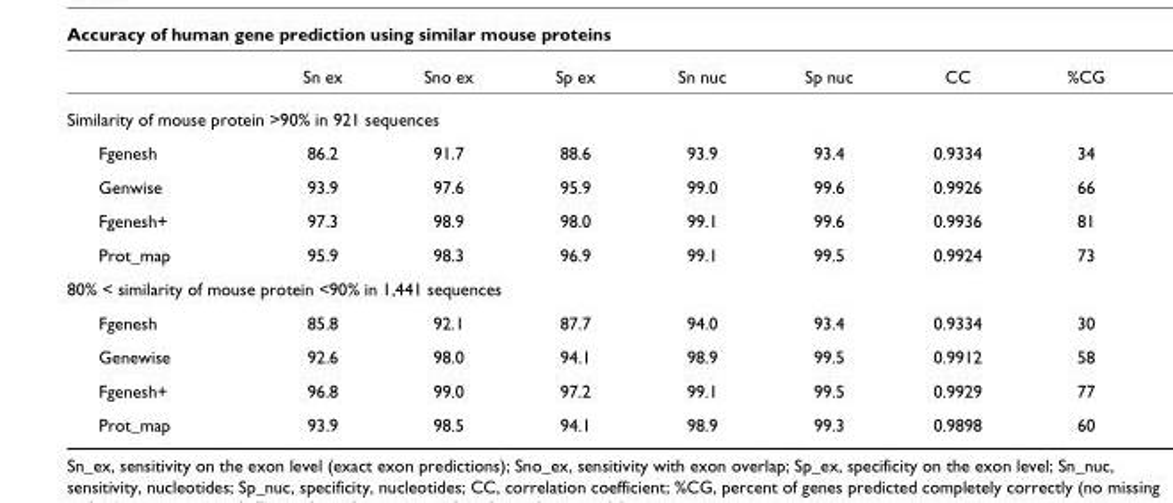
<table><thead><tr><td></td><td>Sn ex</td><td>Sno ex</td><td>Sp ex</td><td>Sn nuc</td><td>Sp nuc</td><td>CC</td><td>%CG</td></tr></thead><tbody><tr><td colspan="8">Similarity of mouse protein &gt;90% in 921 sequences</td></tr><tr><td>Fgenesh</td><td>86.2</td><td>91.7</td><td>88.6</td><td>93.9</td><td>93.4</td><td>0.9334</td><td>34</td></tr><tr><td>Genwise</td><td>93.9</td><td>97.6</td><td>95.9</td><td>99.0</td><td>99.6</td><td>0.9926</td><td>66</td></tr><tr><td>Fgenesh+</td><td>97.3</td><td>98.9</td><td>98.0</td><td>99.1</td><td>99.6</td><td>0.9936</td><td>81</td></tr><tr><td>Prot_map</td><td>95.9</td><td>98.3</td><td>96.9</td><td>99.1</td><td>99.5</td><td>0.9924</td><td>73</td></tr><tr><td colspan="8">80% &lt; similarity of mouse protein &lt;90% in 1,441 sequences</td></tr><tr><td>Fgenesh</td><td>85.8</td><td>92.1</td><td>87.7</td><td>94.0</td><td>93.4</td><td>0.9334</td><td>30</td></tr><tr><td>Genewise</td><td>92.6</td><td>98.0</td><td>94.1</td><td>98.9</td><td>99.5</td><td>0.9912</td><td>58</td></tr><tr><td>Fgenesh+</td><td>96.8</td><td>99.0</td><td>97.2</td><td>99.1</td><td>99.5</td><td>0.9929</td><td>77</td></tr><tr><td>Prot_map</td><td>93.9</td><td>98.5</td><td>94.1</td><td>98.9</td><td>99.3</td><td>0.9898</td><td>60</td></tr></tbody></table>